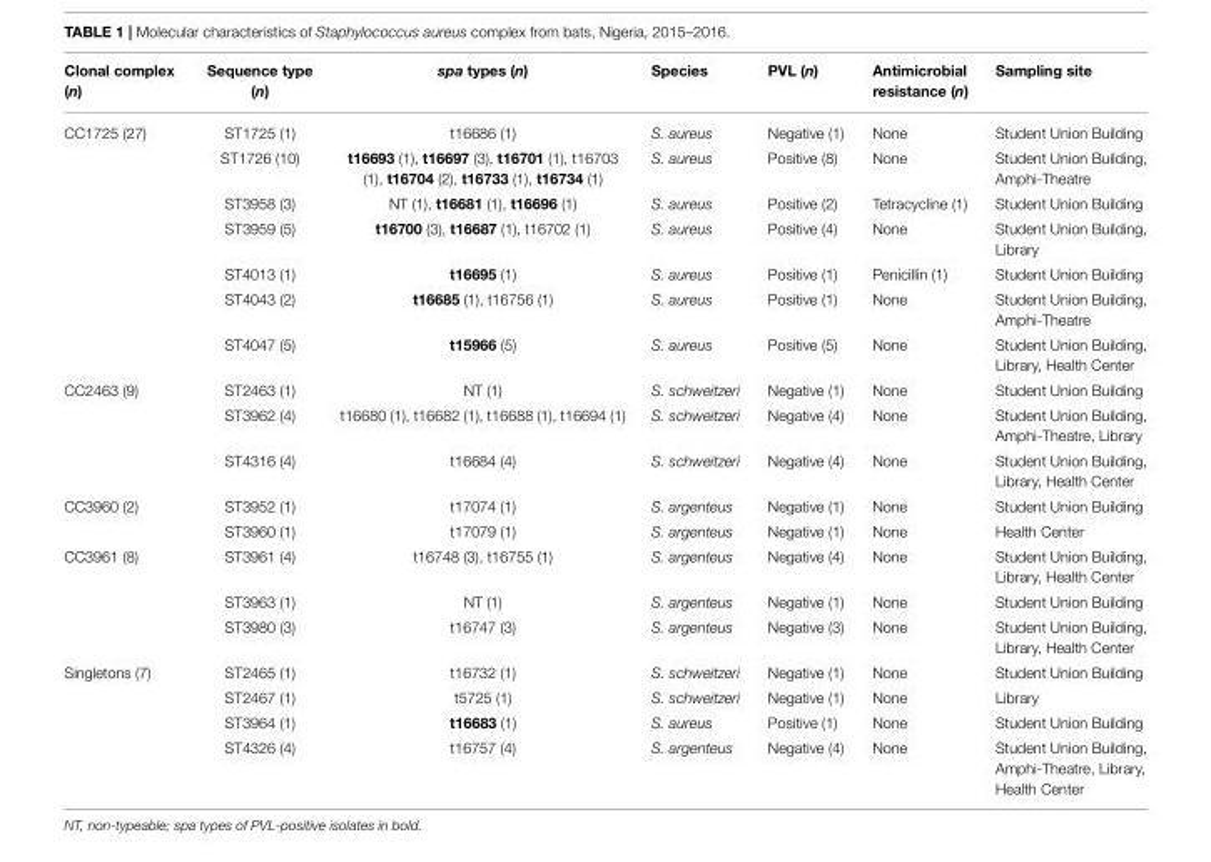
<table><thead><tr><td>Clonal complex (n)</td><td>Sequence type (n)</td><td>spa types (n)</td><td>Species</td><td>PVL (n)</td><td>Antimicrobial resistance (n)</td><td>Sampling site</td></tr></thead><tbody><tr><td rowspan="7">CC1725 (27)</td><td>ST1725 (1)</td><td>t16686 (1)</td><td>S. aureus</td><td>Negative (1)</td><td>None</td><td>Student Union Building</td></tr><tr><td>ST1726 (10)</td><td>t16693 (1), t16697 (3), t16701 (1), t16703 (1), t16704 (2), t16733 (1), t16734 (1)</td><td>S. aureus</td><td>Positive (8)</td><td>None</td><td>Student Union Building, Amphi-Theatre</td></tr><tr><td>ST3958 (3)</td><td>NT (1), t16681 (1), t16696 (1)</td><td>S. aureus</td><td>Positive (2)</td><td>Tetracycline (1)</td><td>Student Union Building</td></tr><tr><td>ST3959 (5)</td><td>t16700 (3), t16687 (1), t16702 (1)</td><td>S. aureus</td><td>Positive (4)</td><td>None</td><td>Student Union Building, Library</td></tr><tr><td>ST4013 (1)</td><td>t16695 (1)</td><td>S. aureus</td><td>Positive (1)</td><td>Penicillin (1)</td><td>Student Union Building</td></tr><tr><td>ST4043 (2)</td><td>t16685 (1), t16756 (1)</td><td>S. aureus</td><td>Positive (1)</td><td>None</td><td>Student Union Building, Amphi-Theatre</td></tr><tr><td>ST4047 (5)</td><td>t15966 (5)</td><td>S. aureus</td><td>Positive (5)</td><td>None</td><td>Student Union Building, Library, Health Center</td></tr><tr><td rowspan="3">CC2463 (9)</td><td>ST2463 (1)</td><td>NT (1)</td><td>S. schweitzeri</td><td>Negative (1)</td><td>None</td><td>Student Union Building</td></tr><tr><td>ST3962 (4)</td><td>t16680 (1), t16682 (1), t16688 (1), t16694 (1)</td><td>S. schweitzeri</td><td>Negative (4)</td><td>None</td><td>Student Union Building, Amphi-Theatre, Library</td></tr><tr><td>ST4316 (4)</td><td>t16684 (4)</td><td>S. schweitzeri</td><td>Negative (4)</td><td>None</td><td>Student Union Building, Library, Health Center</td></tr><tr><td rowspan="2">CC3960 (2)</td><td>ST3952 (1)</td><td>t17074 (1)</td><td>S. argenteus</td><td>Negative (1)</td><td>None</td><td>Student Union Building</td></tr><tr><td>ST3960 (1)</td><td>t17079 (1)</td><td>S. argenteus</td><td>Negative (1)</td><td>None</td><td>Health Center</td></tr><tr><td rowspan="3">CC3961 (8)</td><td>ST3961 (4)</td><td>t16748 (3), t16755 (1)</td><td>S. argenteus</td><td>Negative (4)</td><td>None</td><td>Student Union Building, Library, Health Center</td></tr><tr><td>ST3963 (1)</td><td>NT (1)</td><td>S. argenteus</td><td>Negative (1)</td><td>None</td><td>Student Union Building</td></tr><tr><td>ST3980 (3)</td><td>t16747 (3)</td><td>S. argenteus</td><td>Negative (3)</td><td>None</td><td>Student Union Building, Library, Health Center</td></tr><tr><td rowspan="4">Singletons (7)</td><td>ST2465 (1)</td><td>t16732 (1)</td><td>S. schweitzeri</td><td>Negative (1)</td><td>None</td><td>Student Union Building</td></tr><tr><td>ST2467 (1)</td><td>t5725 (1)</td><td>S. schweitzeri</td><td>Negative (1)</td><td>None</td><td>Library</td></tr><tr><td>ST3964 (1)</td><td>t16683 (1)</td><td>S. aureus</td><td>Positive (1)</td><td>None</td><td>Student Union Building</td></tr><tr><td>ST4326 (4)</td><td>t16757 (4)</td><td>S. argenteus</td><td>Negative (4)</td><td>None</td><td>Student Union Building, Amphi-Theatre, Library, Health Center</td></tr></tbody></table>